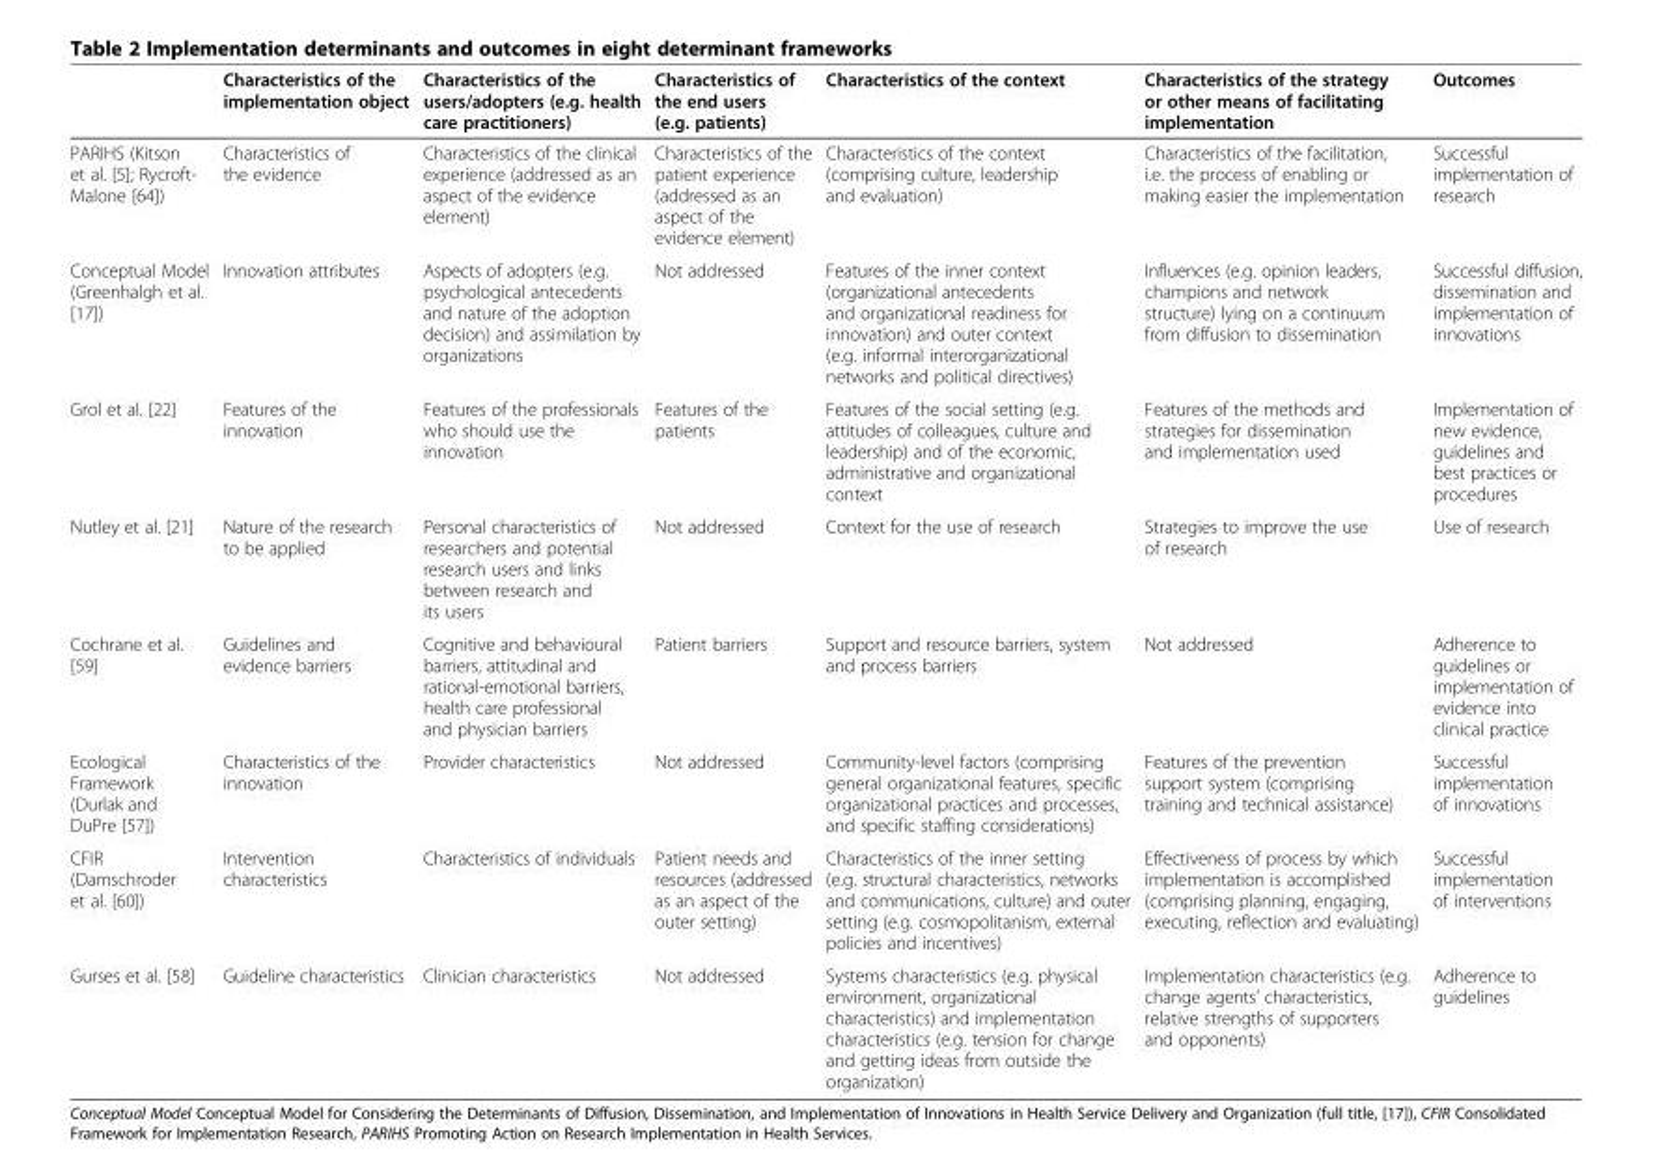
<table><thead><tr><td></td><td>Characteristics of the implementation object</td><td>Characteristics of the users/adopters (e.g. health care practitioners)</td><td>Characteristics of the end users (e.g. patients)</td><td>Characteristics of the context</td><td>Characteristics of the strategy or other means of facilitating implementation</td><td>Outcomes</td></tr></thead><tbody><tr><td>PARIHS (Kitson et al. [5]; Rycroft- Malone [64])</td><td>Characteristics of the evidence</td><td>Characteristics of the clinical experience (addressed as an aspect of the evidence element)</td><td>Characteristics of the patient experience (addressed as an aspect of the evidence element)</td><td>Characteristics of the context (comprising culture, leadership and evaluation)</td><td>Characteristics of the facilitation, i.e. the process of enabling or making easier the implementation</td><td>Successful implementation of research</td></tr><tr><td>Conceptual Model (Greenhalgh et al. [17])</td><td>Innovation attributes</td><td>Aspects of adopters (e.g. psychological antecedents and nature of the adoption decision) and assimilation by organizations</td><td>Not addressed</td><td>Features of the inner context (organizational antecedents and organizational readiness for innovation) and outer context (e.g. informal interorganizational networks and political directives)</td><td>Influences (e.g. opinion leaders, champions and network structure) lying on a continuum from diffusion to dissemination</td><td>Successful diffusion, dissemination and implementation of innovations</td></tr><tr><td>Grol et al. [22]</td><td>Features of the innovation</td><td>Features of the professionals who should use the innovation</td><td>Features of the patients</td><td>Features of the social setting (e.g. attitudes of colleagues, culture and leadership) and of the economic, administrative and organizational context</td><td>Features of the methods and strategies for dissemination and implementation used</td><td>Implementation of new evidence, guidelines and best practices or procedures</td></tr><tr><td>Nutley et al. [21]</td><td>Nature of the research to be applied</td><td>Personal characteristics of researchers and potential research users and links between research and its users</td><td>Not addressed</td><td>Context for the use of research</td><td>Strategies to improve the use of research</td><td>Use of research</td></tr><tr><td>Cochrane et al. [59]</td><td>Guidelines and evidence barriers</td><td>Cognitive and behavioural barriers, attitudinal and rational-emotional barriers, health care professional and physician barriers</td><td>Patient barriers</td><td>Support and resource barriers, system and process barriers</td><td>Not addressed</td><td>Adherence to guidelines or implementation of evidence into clinical practice</td></tr><tr><td>Ecological Framework (Durlak and DuPre [57])</td><td>Characteristics of the innovation</td><td>Provider characteristics</td><td>Not addressed</td><td>Community-level factors (comprising general organizational features, specific organizational practices and processes, and specific staffing considerations)</td><td>Features of the prevention support system (comprising training and technical assistance)</td><td>Successful implementation of innovations</td></tr><tr><td>CFIR (Damschroder et al. [60])</td><td>Intervention characteristics</td><td>Characteristics of individuals</td><td>Patient needs and resources (addressed as an aspect of the outer setting)</td><td>Characteristics of the inner setting (e.g. structural characteristics, networks and communications, culture) and outer setting (e.g. cosmopolitanism, external policies and incentives)</td><td>Effectiveness of process by which implementation is accomplished (comprising planning, engaging, executing, reflection and evaluating)</td><td>Successful implementation of interventions</td></tr><tr><td>Gurses et al. [58]</td><td>Guideline characteristics</td><td>Clinician characteristics</td><td>Not addressed</td><td>Systems characteristics (e.g. physical environment, organizational characteristics) and implementation characteristics (e.g. tension for change and getting ideas from outside the organization)</td><td>Implementation characteristics (e.g. change agents’ characteristics, relative strengths of supporters and opponents)</td><td>Adherence to guidelines</td></tr></tbody></table>